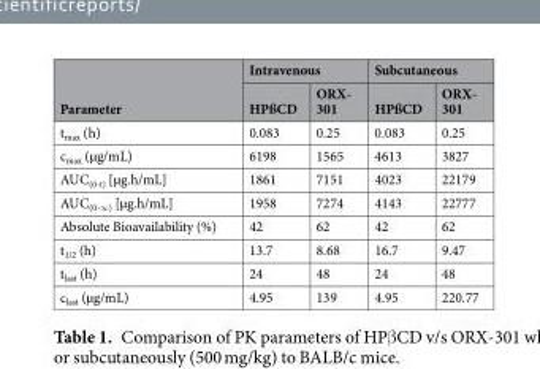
<table><thead><tr><td rowspan="2">Parameter</td><td colspan="2">Intravenous</td><td colspan="2">Subcutaneous</td></tr><tr><td>HPßCD</td><td>ORX- 301</td><td>HPßCD</td><td>ORX- 301</td></tr></thead><tbody><tr><td>t<sub>max</sub> (h)</td><td>0.083</td><td>0.25</td><td>0.083</td><td>0.25</td></tr><tr><td>c<sub>max</sub> (µg/mL)</td><td>6198</td><td>1565</td><td>4613</td><td>3827</td></tr><tr><td>AUC<sub>(0-t)</sub> [µg.h/mL]</td><td>1861</td><td>7151</td><td>4023</td><td>22179</td></tr><tr><td>AUC<sub>(0-∞)</sub> [µg.h/mL]</td><td>1958</td><td>7274</td><td>4143</td><td>22777</td></tr><tr><td>Absolute Bioavailability (%)</td><td>42</td><td>62</td><td>42</td><td>62</td></tr><tr><td>t<sub>1/2</sub> (h)</td><td>13.7</td><td>8.68</td><td>16.7</td><td>9.47</td></tr><tr><td>t<sub>last</sub> (h)</td><td>24</td><td>48</td><td>24</td><td>48</td></tr><tr><td>c<sub>last</sub> (µg/mL)</td><td>4.95</td><td>139</td><td>4.95</td><td>220.77</td></tr></tbody></table>